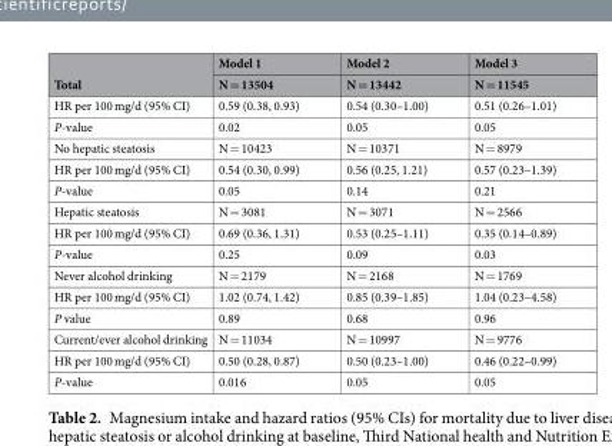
<table><thead><tr><td rowspan="2">Total</td><td rowspan="2">Model 1 N = 13504</td><td rowspan="2">Model 2 N = 13442</td><td rowspan="2">Model 3 N = 11545</td></tr><tr></tr></thead><tbody><tr><td>HR per 100 mg/d (95% CI)</td><td>0.59 (0.38, 0.93)</td><td>0.54 (0.30–1.00)</td><td>0.51 (0.26–1.01)</td></tr><tr><td>P-value</td><td>0.02</td><td>0.05</td><td>0.05</td></tr><tr><td>No hepatic steatosis</td><td>N = 10423</td><td>N = 10371</td><td>N = 8979</td></tr><tr><td>HR per 100 mg/d (95% CI)</td><td>0.54 (0.30, 0.99)</td><td>0.56 (0.25, 1.21)</td><td>0.57 (0.23–1.39)</td></tr><tr><td>P-value</td><td>0.05</td><td>0.14</td><td>0.21</td></tr><tr><td>Hepatic steatosis</td><td>N = 3081</td><td>N = 3071</td><td>N = 2566</td></tr><tr><td>HR per 100 mg/d (95% CI)</td><td>0.69 (0.36, 1.31)</td><td>0.53 (0.25–1.11)</td><td>0.35 (0.14–0.89)</td></tr><tr><td>P-value</td><td>0.25</td><td>0.09</td><td>0.03</td></tr><tr><td>Never alcohol drinking</td><td>N = 2179</td><td>N = 2168</td><td>N = 1769</td></tr><tr><td>HR per 100 mg/d (95% CI)</td><td>1.02 (0.74, 1.42)</td><td>0.85 (0.39–1.85)</td><td>1.04 (0.23–4.58)</td></tr><tr><td>P value</td><td>0.89</td><td>0.68</td><td>0.96</td></tr><tr><td>Current/ever alcohol drinking</td><td>N = 11034</td><td>N = 10997</td><td>N = 9776</td></tr><tr><td>HR per 100 mg/d (95% CI)</td><td>0.50 (0.28, 0.87)</td><td>0.50 (0.23–1.00)</td><td>0.46 (0.22–0.99)</td></tr><tr><td>P-value</td><td>0.016</td><td>0.05</td><td>0.05</td></tr></tbody></table>